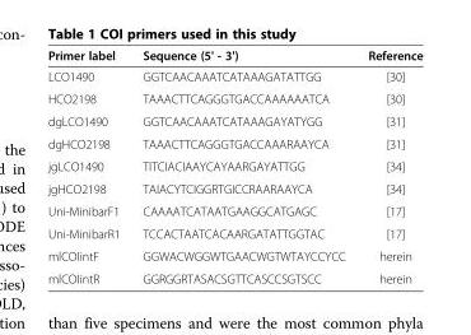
<table><thead><tr><td>Primer label</td><td>Sequence (5&#x27; - 3&#x27;)</td><td>Reference</td></tr></thead><tbody><tr><td>LCO1490</td><td>GGTCAACAAATCATAAAGATATTGG</td><td>[30]</td></tr><tr><td>HCO2198</td><td>TAAACTTCAGGGTGACCAAAAAATCA</td><td>[30]</td></tr><tr><td>dgLCO1490</td><td>GGTCAACAAATCATAAAGAYATYGG</td><td>[31]</td></tr><tr><td>dgHCO2198</td><td>TAAACTTCAGGGTGACCAAARAAYCA</td><td>[31]</td></tr><tr><td>jgLCO1490</td><td>TITCIACIAAYCAYAARGAYATTGG</td><td>[34]</td></tr><tr><td>jgHCO2198</td><td>TAIACYTCIGGRTGICCRAARAAYCA</td><td>[34]</td></tr><tr><td>Uni-MinibarF1</td><td>CAAAATCATAATGAAGGCATGAGC</td><td>[17]</td></tr><tr><td>Uni-MinibarR1</td><td>TCCACTAATCACAARGATATTGGTAC</td><td>[17]</td></tr><tr><td>mlCOIintF</td><td>GGWACWGGWTGAACWGTWTAYCCYCC</td><td>herein</td></tr><tr><td>mlCOIintR</td><td>GGRGGRTASACSGTTCASCCSGTSCC</td><td>herein</td></tr></tbody></table>